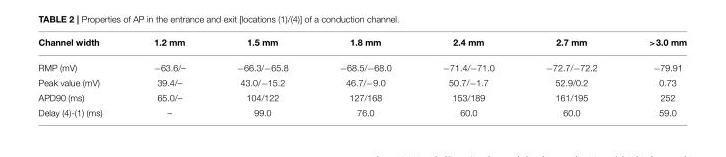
<table><thead><tr><td>Channel width</td><td>1.2 mm</td><td>1.5 mm</td><td>1.8 mm</td><td>2.4 mm</td><td>2.7 mm</td><td>&gt;3.0 mm</td></tr></thead><tbody><tr><td>RMP (mV)</td><td>−63.6/–</td><td>−66.3/−65.8</td><td>−68.5/−68.0</td><td>−71.4/−71.0</td><td>−72.7/−72.2</td><td>−79.91</td></tr><tr><td>Peak value (mV)</td><td>39.4/–</td><td>43.0/−15.2</td><td>46.7/−9.0</td><td>50.7/−1.7</td><td>52.9/0.2</td><td>0.73</td></tr><tr><td>APD90 (ms)</td><td>65.0/–</td><td>104/122</td><td>127/168</td><td>153/189</td><td>161/195</td><td>252</td></tr><tr><td>Delay (4)-(1) (ms)</td><td>–</td><td>99.0</td><td>76.0</td><td>60.0</td><td>60.0</td><td>59.0</td></tr></tbody></table>